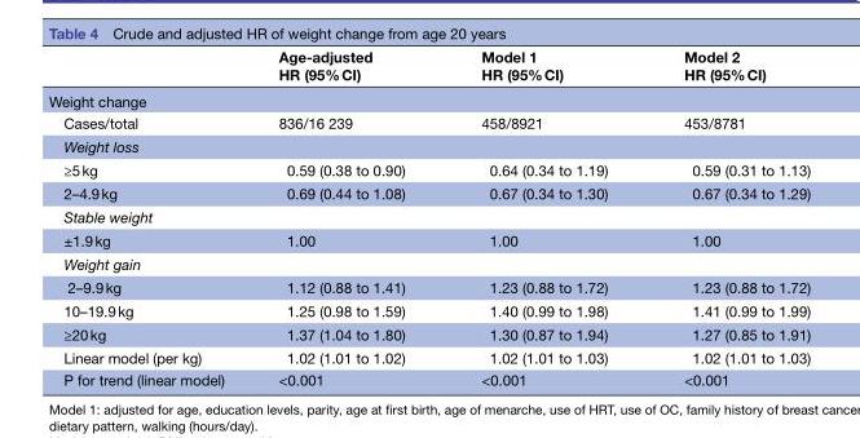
<table><thead><tr><td></td><td>Age-adjusted HR (95% CI)</td><td>Model 1 HR (95% CI)</td><td>Model 2 HR (95% CI)</td></tr></thead><tbody><tr><td colspan="4">Weight change</td></tr><tr><td>Cases/total</td><td>836/16 239</td><td>458/8921</td><td>453/8781</td></tr><tr><td colspan="4">Weight loss</td></tr><tr><td>≥5 kg</td><td>0.59 (0.38 to 0.90)</td><td>0.64 (0.34 to 1.19)</td><td>0.59 (0.31 to 1.13)</td></tr><tr><td>2–4.9 kg</td><td>0.69 (0.44 to 1.08)</td><td>0.67 (0.34 to 1.30)</td><td>0.67 (0.34 to 1.29)</td></tr><tr><td colspan="4">Stable weight</td></tr><tr><td>±1.9 kg</td><td>1.00</td><td>1.00</td><td>1.00</td></tr><tr><td colspan="4">Weight gain</td></tr><tr><td>2–9.9 kg</td><td>1.12 (0.88 to 1.41)</td><td>1.23 (0.88 to 1.72)</td><td>1.23 (0.88 to 1.72)</td></tr><tr><td>10–19.9 kg</td><td>1.25 (0.98 to 1.59)</td><td>1.40 (0.99 to 1.98)</td><td>1.41 (0.99 to 1.99)</td></tr><tr><td>≥20 kg</td><td>1.37 (1.04 to 1.80)</td><td>1.30 (0.87 to 1.94)</td><td>1.27 (0.85 to 1.91)</td></tr><tr><td>Linear model (per kg)</td><td>1.02 (1.01 to 1.02)</td><td>1.02 (1.01 to 1.03)</td><td>1.02 (1.01 to 1.03)</td></tr><tr><td>P for trend (linear model)</td><td>&lt;0.001</td><td>&lt;0.001</td><td>&lt;0.001</td></tr></tbody></table>